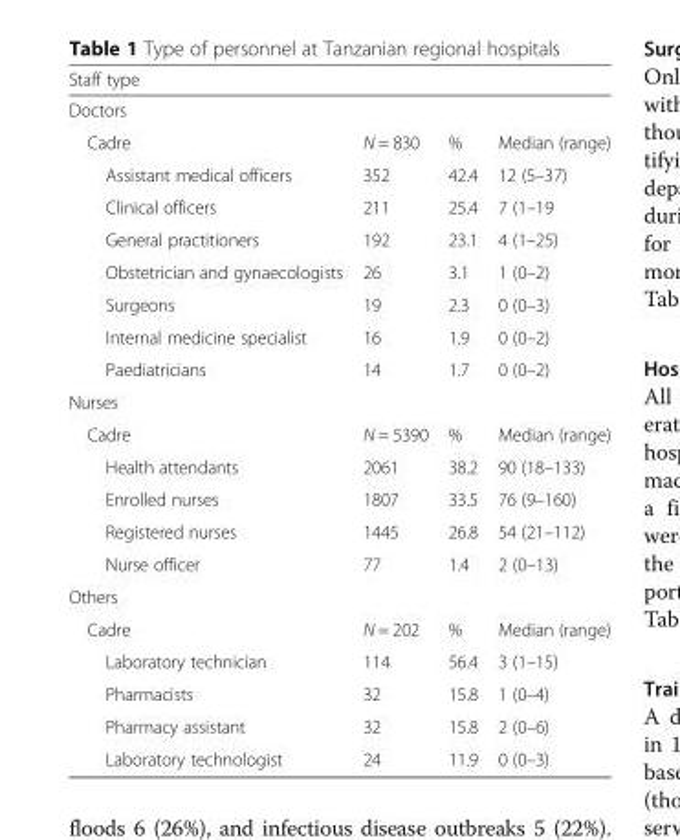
<table><thead><tr><td rowspan="2" colspan="4">Staff type Doctors</td></tr><tr></tr><tr><td>Cadre</td><td>N = 830</td><td>%</td><td>Median (range)</td></tr></thead><tbody><tr><td>Assistant medical officers</td><td>352</td><td>42.4</td><td>12 (5–37)</td></tr><tr><td>Clinical officers</td><td>211</td><td>25.4</td><td>7 (1–19</td></tr><tr><td>General practitioners</td><td>192</td><td>23.1</td><td>4 (1–25)</td></tr><tr><td>Obstetrician and gynaecologists</td><td>26</td><td>3.1</td><td>1 (0–2)</td></tr><tr><td>Surgeons</td><td>19</td><td>2.3</td><td>0 (0–3)</td></tr><tr><td>Internal medicine specialist</td><td>16</td><td>1.9</td><td>0 (0–2)</td></tr><tr><td>Paediatricians</td><td>14</td><td>1.7</td><td>0 (0–2)</td></tr><tr><td colspan="4">Nurses</td></tr><tr><td>Cadre</td><td>N = 5390</td><td>%</td><td>Median (range)</td></tr><tr><td>Health attendants</td><td>2061</td><td>38.2</td><td>90 (18–133)</td></tr><tr><td>Enrolled nurses</td><td>1807</td><td>33.5</td><td>76 (9–160)</td></tr><tr><td>Registered nurses</td><td>1445</td><td>26.8</td><td>54 (21–112)</td></tr><tr><td>Nurse officer</td><td>77</td><td>1.4</td><td>2 (0–13)</td></tr><tr><td colspan="4">Others</td></tr><tr><td>Cadre</td><td>N = 202</td><td>%</td><td>Median (range)</td></tr><tr><td>Laboratory technician</td><td>114</td><td>56.4</td><td>3 (1–15)</td></tr><tr><td>Pharmacists</td><td>32</td><td>15.8</td><td>1 (0–4)</td></tr><tr><td>Pharmacy assistant</td><td>32</td><td>15.8</td><td>2 (0–6)</td></tr><tr><td>Laboratory technologist</td><td>24</td><td>11.9</td><td>0 (0–3)</td></tr></tbody></table>